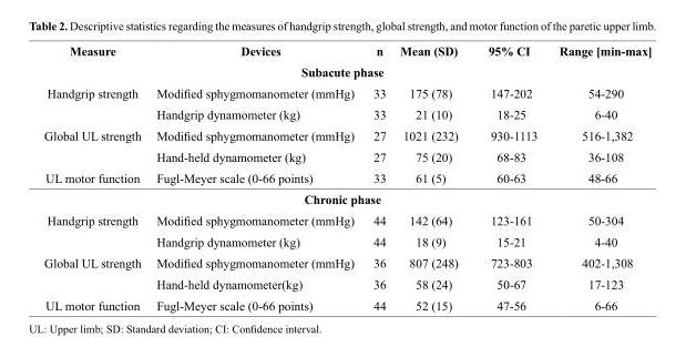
<table><thead><tr><td>Measure</td><td>Devices</td><td>n</td><td rowspan="2">Mean (SD)</td><td rowspan="2">95% CI</td><td rowspan="2">Range [min-max]</td></tr><tr><td colspan="3">Subacute phase</td></tr></thead><tbody><tr><td rowspan="2">Handgrip strength</td><td>Modified sphygmomanometer (mmHg)</td><td>33</td><td>175 (78)</td><td>147-202</td><td>54-290</td></tr><tr><td>Handgrip dynamometer (kg)</td><td>33</td><td>21 (10)</td><td>18-25</td><td>6-40</td></tr><tr><td rowspan="2">Global UL strength</td><td>Modified sphygmomanometer (mmHg)</td><td>27</td><td>1021 (232)</td><td>930-1113</td><td>516-1,382</td></tr><tr><td>Hand-held dynamometer (kg)</td><td>27</td><td>75 (20)</td><td>68-83</td><td>36-108</td></tr><tr><td>UL motor function</td><td>Fugl-Meyer scale (0-66 points)</td><td>33</td><td>61 (5)</td><td>60-63</td><td>48-66</td></tr><tr><td colspan="6">Chronic phase</td></tr><tr><td rowspan="2">Handgrip strength</td><td>Modified sphygmomanometer (mmHg)</td><td>44</td><td>142 (64)</td><td>123-161</td><td>50-304</td></tr><tr><td>Handgrip dynamometer (kg)</td><td>44</td><td>18 (9)</td><td>15-21</td><td>4-40</td></tr><tr><td rowspan="2">Global UL strength</td><td>Modified sphygmomanometer (mmHg)</td><td>36</td><td>807 (248)</td><td>723-803</td><td>402-1,308</td></tr><tr><td>Hand-held dynamometer(kg)</td><td>36</td><td>58 (24)</td><td>50-67</td><td>17-123</td></tr><tr><td>UL motor function</td><td>Fugl-Meyer scale (0-66 points)</td><td>44</td><td>52 (15)</td><td>47-56</td><td>6-66</td></tr></tbody></table>